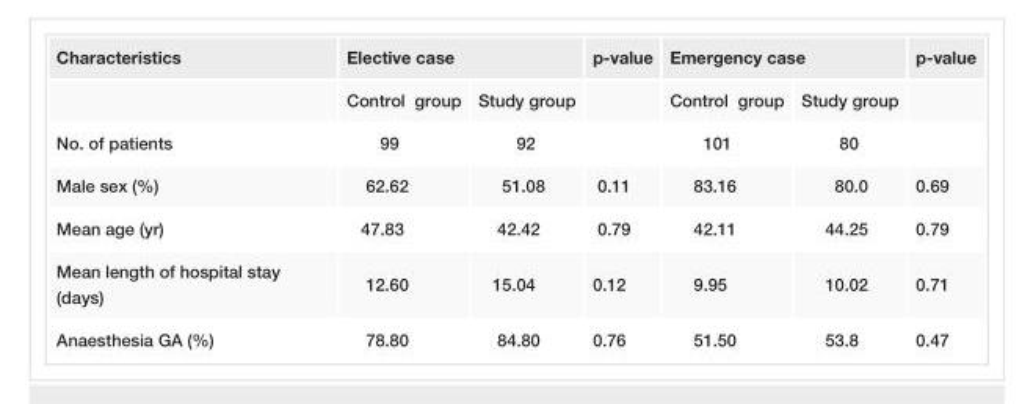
<table><tbody><tr><td rowspan="2">Characteristics</td><td colspan="2">Elective case</td><td>p-value</td><td colspan="2">Emergency case</td><td>p-value</td></tr><tr><td>Control group</td><td>Study group</td><td></td><td>Control group</td><td>Study group</td><td></td></tr><tr><td>No. of patients</td><td>99</td><td>92</td><td></td><td>101</td><td>80</td><td></td></tr><tr><td>Male sex (%)</td><td>62.62</td><td>51.08</td><td>0.11</td><td>83.16</td><td>80.0</td><td>0.69</td></tr><tr><td>Mean age (yr)</td><td>47.83</td><td>42.42</td><td>0.79</td><td>42.11</td><td>44.25</td><td>0.79</td></tr><tr><td>Mean length of hospital stay (days)</td><td>12.60</td><td>15.04</td><td>0.12</td><td>9.95</td><td>10.02</td><td>0.71</td></tr><tr><td>Anaesthesia GA (%)</td><td>78.80</td><td>84.80</td><td>0.76</td><td>51.50</td><td>53.8</td><td>0.47</td></tr></tbody></table>